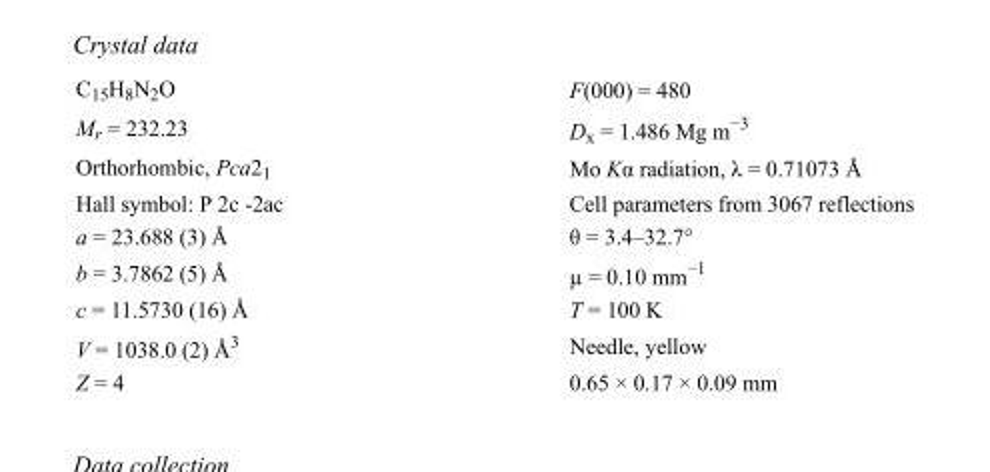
<table><tbody><tr><td>C<sub>15</sub>H<sub>8</sub>N<sub>2</sub>O</td><td>F(000) = 480</td></tr><tr><td>M<sub>r</sub> = 232.23</td><td>D<sub>x</sub> = 1.486 Mg m<sup>−3</sup></td></tr><tr><td>Orthorhombic, Pca2<sub>1</sub></td><td>Mo Kα radiation, λ = 0.71073 Å</td></tr><tr><td>Hall symbol: P 2c -2ac</td><td>Cell parameters from 3067 reflections</td></tr><tr><td>a = 23.688 (3) Å</td><td>θ = 3.4–32.7°</td></tr><tr><td>b = 3.7862 (5) Å</td><td>µ = 0.10 mm<sup>−1</sup></td></tr><tr><td>c = 11.5730 (16) Å</td><td>T = 100 K</td></tr><tr><td>V = 1038.0 (2) Å<sup>3</sup></td><td>Needle, yellow</td></tr><tr><td>Z = 4</td><td>0.65 × 0.17 × 0.09 mm</td></tr></tbody></table>